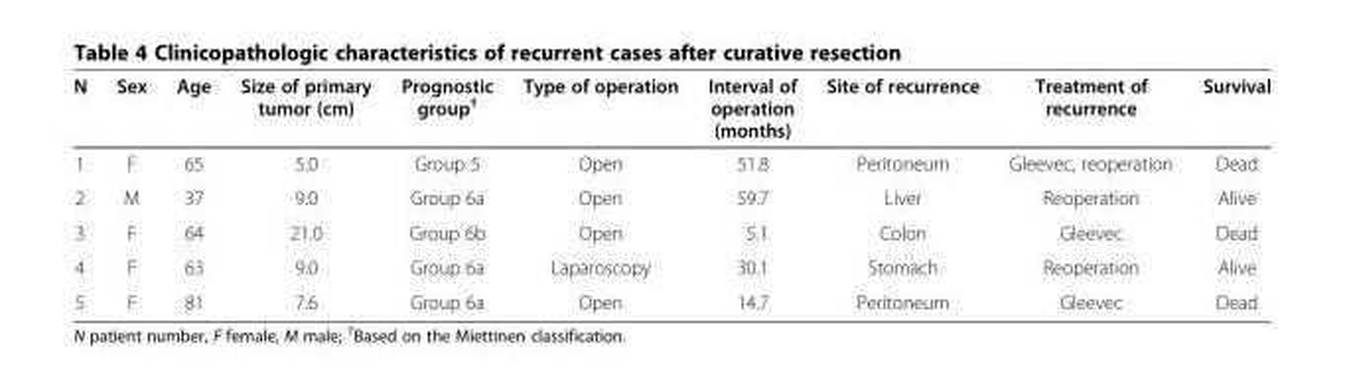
<table><thead><tr><td>N</td><td>Sex</td><td>Age</td><td>Size of primary tumor (cm)</td><td>Prognostic group<sup>†</sup></td><td>Type of operation</td><td>Interval of operation (months)</td><td>Site of recurrence</td><td>Treatment of recurrence</td><td>Survival</td></tr></thead><tbody><tr><td>1</td><td>F</td><td>65</td><td>5.0</td><td>Group 5</td><td>Open</td><td>51.8</td><td>Peritoneum</td><td>Gleevec, reoperation</td><td>Dead</td></tr><tr><td>2</td><td>M</td><td>37</td><td>9.0</td><td>Group 6a</td><td>Open</td><td>59.7</td><td>Liver</td><td>Reoperation</td><td>Alive</td></tr><tr><td>3</td><td>F</td><td>64</td><td>21.0</td><td>Group 6b</td><td>Open</td><td>5.1</td><td>Colon</td><td>Gleevec</td><td>Dead</td></tr><tr><td>4</td><td>F</td><td>63</td><td>9.0</td><td>Group 6a</td><td>Laparoscopy</td><td>30.1</td><td>Stomach</td><td>Reoperation</td><td>Alive</td></tr><tr><td>5</td><td>F</td><td>81</td><td>7.6</td><td>Group 6a</td><td>Open</td><td>14.7</td><td>Peritoneum</td><td>Gleevec</td><td>Dead</td></tr></tbody></table>